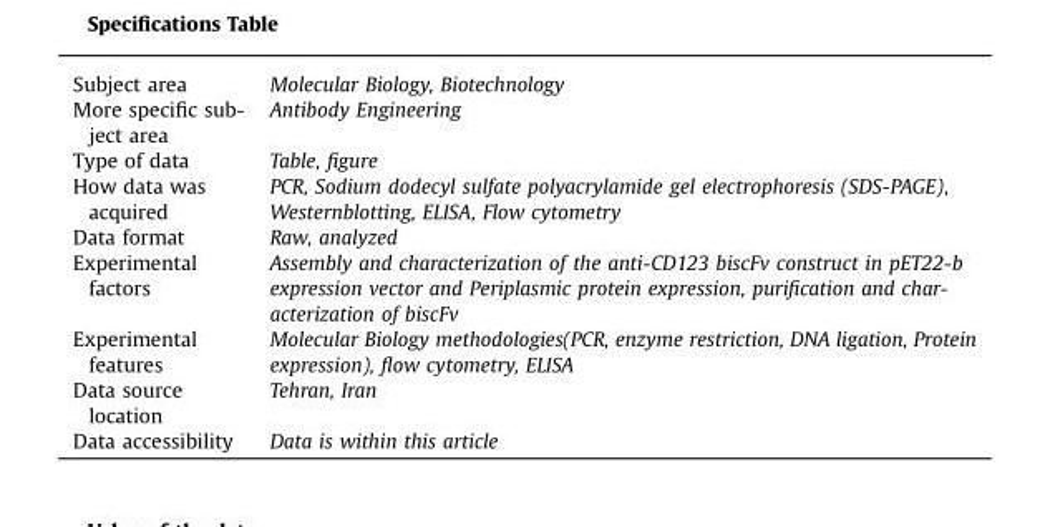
<table><tbody><tr><td>Subject area</td><td>Molecular Biology, Biotechnology</td></tr><tr><td>More specific sub- ject area</td><td>Antibody Engineering</td></tr><tr><td>Type of data</td><td>Table, figure</td></tr><tr><td>How data was acquired</td><td>PCR, Sodium dodecyl sulfate polyacrylamide gel electrophoresis (SDS-PAGE), Westernblotting, ELISA, Flow cytometry</td></tr><tr><td>Data format</td><td>Raw, analyzed</td></tr><tr><td>Experimental factors</td><td>Assembly and characterization of the anti-CD123 biscFv construct in pET22-b expression vector and Periplasmic protein expression, purification and char- acterization of biscFv</td></tr><tr><td>Experimental features</td><td>Molecular Biology methodologies(PCR, enzyme restriction, DNA ligation, Protein expression), flow cytometry, ELISA</td></tr><tr><td>Data source location</td><td>Tehran, Iran</td></tr><tr><td>Data accessibility</td><td>Data is within this article</td></tr></tbody></table>